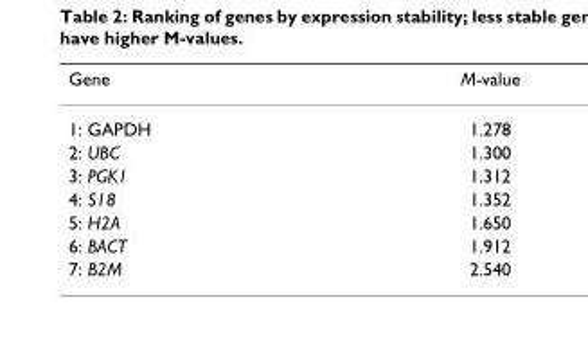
<table><thead><tr><td>Gene</td><td>M-value</td></tr></thead><tbody><tr><td>1: GAPDH</td><td>1.278</td></tr><tr><td>2: UBC</td><td>1.300</td></tr><tr><td>3: PGK1</td><td>1.312</td></tr><tr><td>4: S18</td><td>1.352</td></tr><tr><td>5: H2A</td><td>1.650</td></tr><tr><td>6: BACT</td><td>1.912</td></tr><tr><td>7: B2M</td><td>2.540</td></tr></tbody></table>